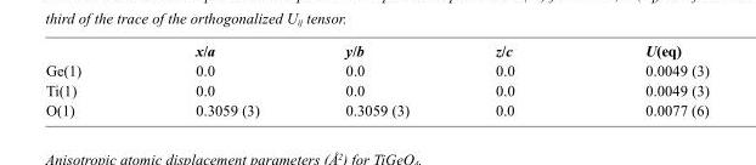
<table><thead><tr><td></td><td>x/a</td><td>y/b</td><td>z/c</td><td>U(eq)</td></tr></thead><tbody><tr><td>Ge(1)</td><td>0.0</td><td>0.0</td><td>0.0</td><td>0.0049 (3)</td></tr><tr><td>Ti(1)</td><td>0.0</td><td>0.0</td><td>0.0</td><td>0.0049 (3)</td></tr><tr><td>O(1)</td><td>0.3059 (3)</td><td>0.3059 (3)</td><td>0.0</td><td>0.0077 (6)</td></tr></tbody></table>